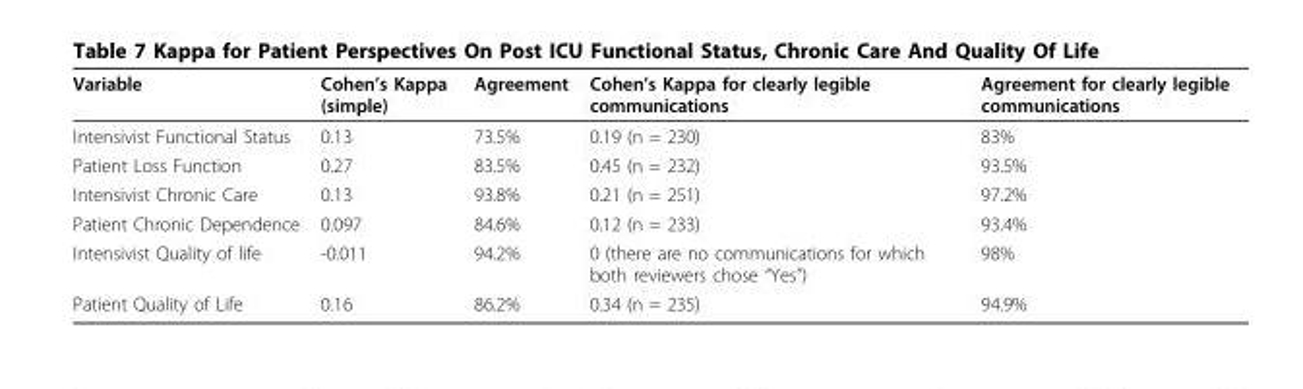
<table><thead><tr><td>Variable</td><td>Cohen’s Kappa (simple)</td><td>Agreement</td><td>Cohen’s Kappa for clearly legible communications</td><td>Agreement for clearly legible communications</td></tr></thead><tbody><tr><td>Intensivist Functional Status</td><td>0.13</td><td>73.5%</td><td>0.19 (n = 230)</td><td>83%</td></tr><tr><td>Patient Loss Function</td><td>0.27</td><td>83.5%</td><td>0.45 (n = 232)</td><td>93.5%</td></tr><tr><td>Intensivist Chronic Care</td><td>0.13</td><td>93.8%</td><td>0.21 (n = 251)</td><td>97.2%</td></tr><tr><td>Patient Chronic Dependence</td><td>0.097</td><td>84.6%</td><td>0.12 (n = 233)</td><td>93.4%</td></tr><tr><td>Intensivist Quality of life</td><td>-0.011</td><td>94.2%</td><td>0 (there are no communications for which both reviewers chose “Yes”)</td><td>98%</td></tr><tr><td>Patient Quality of Life</td><td>0.16</td><td>86.2%</td><td>0.34 (n = 235)</td><td>94.9%</td></tr></tbody></table>